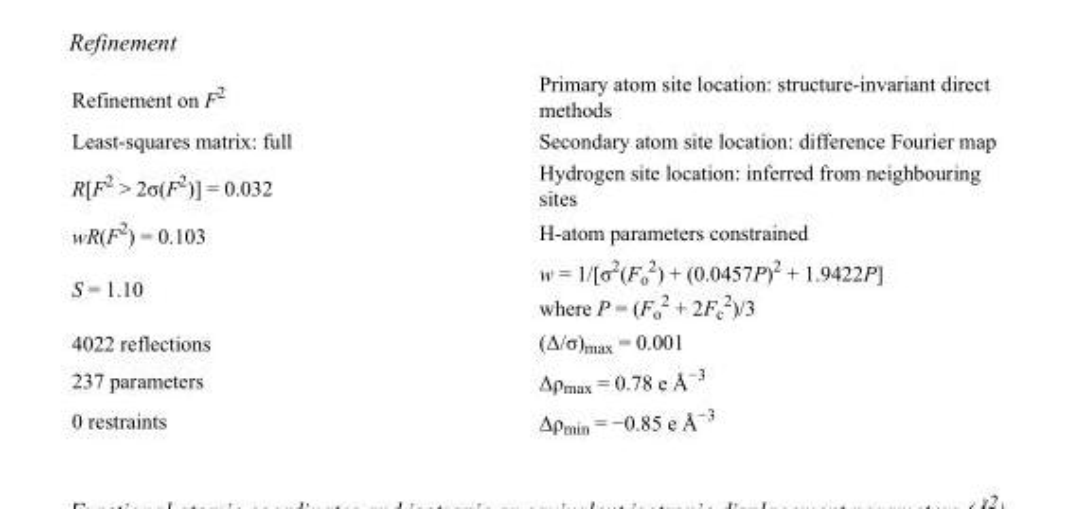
<table><tbody><tr><td>Refinement on F<sup>2</sup></td><td>Primary atom site location: structure-invariant direct methods</td></tr><tr><td>Least-squares matrix: full</td><td>Secondary atom site location: difference Fourier map</td></tr><tr><td>R[F<sup>2</sup> &gt; 2σ(F<sup>2</sup>)] = 0.032</td><td>Hydrogen site location: inferred from neighbouring sites</td></tr><tr><td>wR(F<sup>2</sup>) = 0.103</td><td>H-atom parameters constrained</td></tr><tr><td>S = 1.10</td><td>w = 1/[σ<sup>2</sup>(F<sub>o</sub> <sup>2</sup>) + (0.0457P)<sup>2</sup> + 1.9422P] where P = (F<sub>o</sub> <sup>2</sup> + 2F<sub>c</sub> <sup>2</sup>)/3</td></tr><tr><td>4022 reflections</td><td>(Δ/σ)<sub>max</sub> = 0.001</td></tr><tr><td>237 parameters</td><td>Δρ<sub>max</sub> = 0.78 e Å<sup>−3</sup></td></tr><tr><td>0 restraints</td><td>Δρ<sub>min</sub> = −0.85 e Å<sup>−3</sup></td></tr></tbody></table>